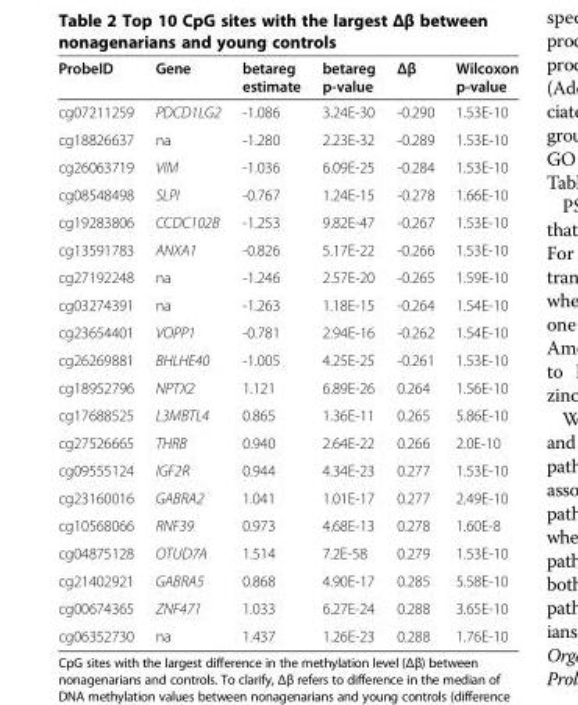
<table><thead><tr><td>ProbeID</td><td>Gene</td><td>betareg estimate</td><td>betareg p-value</td><td>Δβ</td><td>Wilcoxon p-value</td></tr></thead><tbody><tr><td>cg07211259</td><td>PDCD1LG2</td><td>-1.086</td><td>3.24E-30</td><td>-0.290</td><td>1.53E-10</td></tr><tr><td>cg18826637</td><td>na</td><td>-1.280</td><td>2.23E-32</td><td>-0.289</td><td>1.53E-10</td></tr><tr><td>cg26063719</td><td>VIM</td><td>-1.036</td><td>6.09E-25</td><td>-0.284</td><td>1.53E-10</td></tr><tr><td>cg08548498</td><td>SLPI</td><td>-0.767</td><td>1.24E-15</td><td>-0.278</td><td>1.66E-10</td></tr><tr><td>cg19283806</td><td>CCDC102B</td><td>-1.253</td><td>9.82E-47</td><td>-0.267</td><td>1.53E-10</td></tr><tr><td>cg13591783</td><td>ANXA1</td><td>-0.826</td><td>5.17E-22</td><td>-0.266</td><td>1.53E-10</td></tr><tr><td>cg27192248</td><td>na</td><td>-1.246</td><td>2.57E-20</td><td>-0.265</td><td>1.59E-10</td></tr><tr><td>cg03274391</td><td>na</td><td>-1.263</td><td>1.18E-15</td><td>-0.264</td><td>1.54E-10</td></tr><tr><td>cg23654401</td><td>VOPP1</td><td>-0.781</td><td>2.94E-16</td><td>-0.262</td><td>1.54E-10</td></tr><tr><td>cg26269881</td><td>BHLHE40</td><td>-1.005</td><td>4.25E-25</td><td>-0.261</td><td>1.53E-10</td></tr><tr><td>cg18952796</td><td>NPTX2</td><td>1.121</td><td>6.89E-26</td><td>0.264</td><td>1.56E-10</td></tr><tr><td>cg17688525</td><td>L3MBTL4</td><td>0.865</td><td>1.36E-11</td><td>0.265</td><td>5.86E-10</td></tr><tr><td>cg27526665</td><td>THRB</td><td>0.940</td><td>2.64E-22</td><td>0.266</td><td>2.0E-10</td></tr><tr><td>cg09555124</td><td>IGF2R</td><td>0.944</td><td>4.34E-23</td><td>0.277</td><td>1.53E-10</td></tr><tr><td>cg23160016</td><td>GABRA2</td><td>1.041</td><td>1.01E-17</td><td>0.277</td><td>2.49E-10</td></tr><tr><td>cg10568066</td><td>RNF39</td><td>0.973</td><td>4.68E-13</td><td>0.278</td><td>1.60E-8</td></tr><tr><td>cg04875128</td><td>OTUD7A</td><td>1.514</td><td>7.2E-58</td><td>0.279</td><td>1.53E-10</td></tr><tr><td>cg21402921</td><td>GABRA5</td><td>0.868</td><td>4.90E-17</td><td>0.285</td><td>5.58E-10</td></tr><tr><td>cg00674365</td><td>ZNF471</td><td>1.033</td><td>6.27E-24</td><td>0.288</td><td>3.65E-10</td></tr><tr><td>cg06352730</td><td>na</td><td>1.437</td><td>1.26E-23</td><td>0.288</td><td>1.76E-10</td></tr></tbody></table>